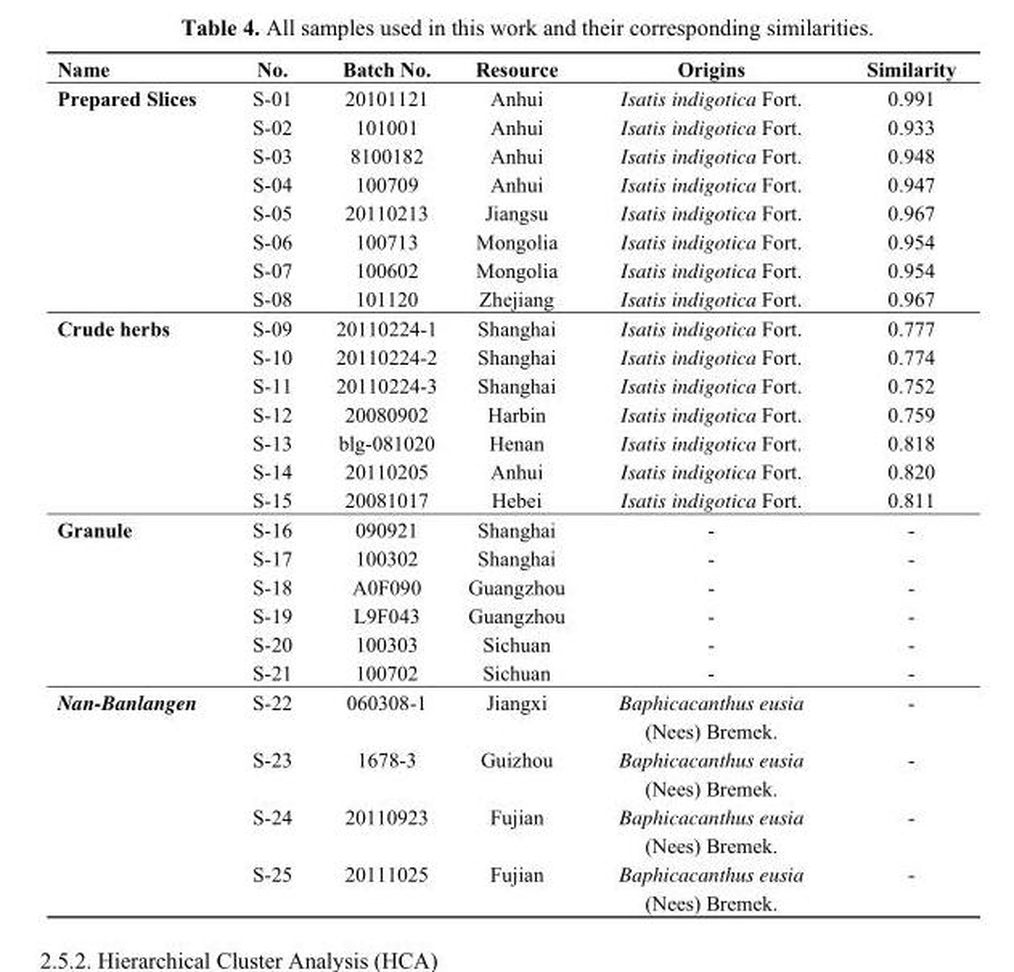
<table><thead><tr><td>Name</td><td>No.</td><td>Batch No.</td><td>Resource</td><td>Origins</td><td>Similarity</td></tr></thead><tbody><tr><td rowspan="8">Prepared Slices</td><td>S-01</td><td>20101121</td><td>Anhui</td><td>Isatis indigotica Fort.</td><td>0.991</td></tr><tr><td>S-02</td><td>101001</td><td>Anhui</td><td>Isatis indigotica Fort.</td><td>0.933</td></tr><tr><td>S-03</td><td>8100182</td><td>Anhui</td><td>Isatis indigotica Fort.</td><td>0.948</td></tr><tr><td>S-04</td><td>100709</td><td>Anhui</td><td>Isatis indigotica Fort.</td><td>0.947</td></tr><tr><td>S-05</td><td>20110213</td><td>Jiangsu</td><td>Isatis indigotica Fort.</td><td>0.967</td></tr><tr><td>S-06</td><td>100713</td><td>Mongolia</td><td>Isatis indigotica Fort.</td><td>0.954</td></tr><tr><td>S-07</td><td>100602</td><td>Mongolia</td><td>Isatis indigotica Fort.</td><td>0.954</td></tr><tr><td>S-08</td><td>101120</td><td>Zhejiang</td><td>Isatis indigotica Fort.</td><td>0.967</td></tr><tr><td rowspan="7">Crude herbs</td><td>S-09</td><td>20110224-1</td><td>Shanghai</td><td>Isatis indigotica Fort.</td><td>0.777</td></tr><tr><td>S-10</td><td>20110224-2</td><td>Shanghai</td><td>Isatis indigotica Fort.</td><td>0.774</td></tr><tr><td>S-11</td><td>20110224-3</td><td>Shanghai</td><td>Isatis indigotica Fort.</td><td>0.752</td></tr><tr><td>S-12</td><td>20080902</td><td>Harbin</td><td>Isatis indigotica Fort.</td><td>0.759</td></tr><tr><td>S-13</td><td>blg-081020</td><td>Henan</td><td>Isatis indigotica Fort.</td><td>0.818</td></tr><tr><td>S-14</td><td>20110205</td><td>Anhui</td><td>Isatis indigotica Fort.</td><td>0.820</td></tr><tr><td>S-15</td><td>20081017</td><td>Hebei</td><td>Isatis indigotica Fort.</td><td>0.811</td></tr><tr><td rowspan="6">Granule</td><td>S-16</td><td>090921</td><td>Shanghai</td><td>-</td><td>-</td></tr><tr><td>S-17</td><td>100302</td><td>Shanghai</td><td>-</td><td>-</td></tr><tr><td>S-18</td><td>A0F090</td><td>Guangzhou</td><td>-</td><td>-</td></tr><tr><td>S-19</td><td>L9F043</td><td>Guangzhou</td><td>-</td><td>-</td></tr><tr><td>S-20</td><td>100303</td><td>Sichuan</td><td>-</td><td>-</td></tr><tr><td>S-21</td><td>100702</td><td>Sichuan</td><td>-</td><td>-</td></tr><tr><td rowspan="4">Nan-Banlangen</td><td>S-22</td><td>060308-1</td><td>Jiangxi</td><td>Baphicacanthus eusia (Nees) Bremek.</td><td>-</td></tr><tr><td>S-23</td><td>1678-3</td><td>Guizhou</td><td>Baphicacanthus eusia (Nees) Bremek.</td><td>-</td></tr><tr><td>S-24</td><td>20110923</td><td>Fujian</td><td>Baphicacanthus eusia (Nees) Bremek.</td><td>-</td></tr><tr><td>S-25</td><td>20111025</td><td>Fujian</td><td>Baphicacanthus eusia (Nees) Bremek.</td><td>-</td></tr></tbody></table>